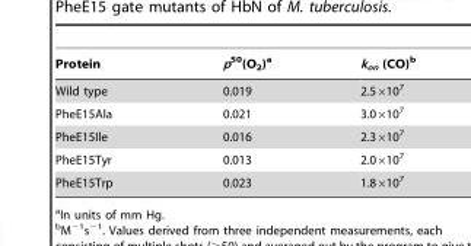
<table><thead><tr><td>Protein</td><td>p<sup>50</sup>(O<sub>2</sub>)<sup>a</sup></td><td>k<sub>on</sub> (CO)<sup>b</sup></td></tr></thead><tbody><tr><td>Wild type</td><td>0.019</td><td>2.5×10<sup>7</sup></td></tr><tr><td>PheE15Ala</td><td>0.021</td><td>3.0×10<sup>7</sup></td></tr><tr><td>PheE15Ile</td><td>0.016</td><td>2.3×10<sup>7</sup></td></tr><tr><td>PheE15Tyr</td><td>0.013</td><td>2.0×10<sup>7</sup></td></tr><tr><td>PheE15Trp</td><td>0.023</td><td>1.8×10<sup>7</sup></td></tr></tbody></table>